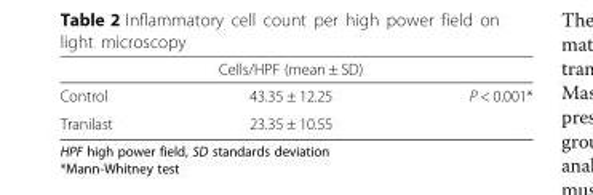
<table><thead><tr><td></td><td>Cells/HPF (mean ± SD)</td><td></td></tr></thead><tbody><tr><td>Control</td><td>43.35 ± 12.25</td><td rowspan="2">P &lt; 0.001*</td></tr><tr><td>Tranilast</td><td>23.35 ± 10.55</td></tr></tbody></table>